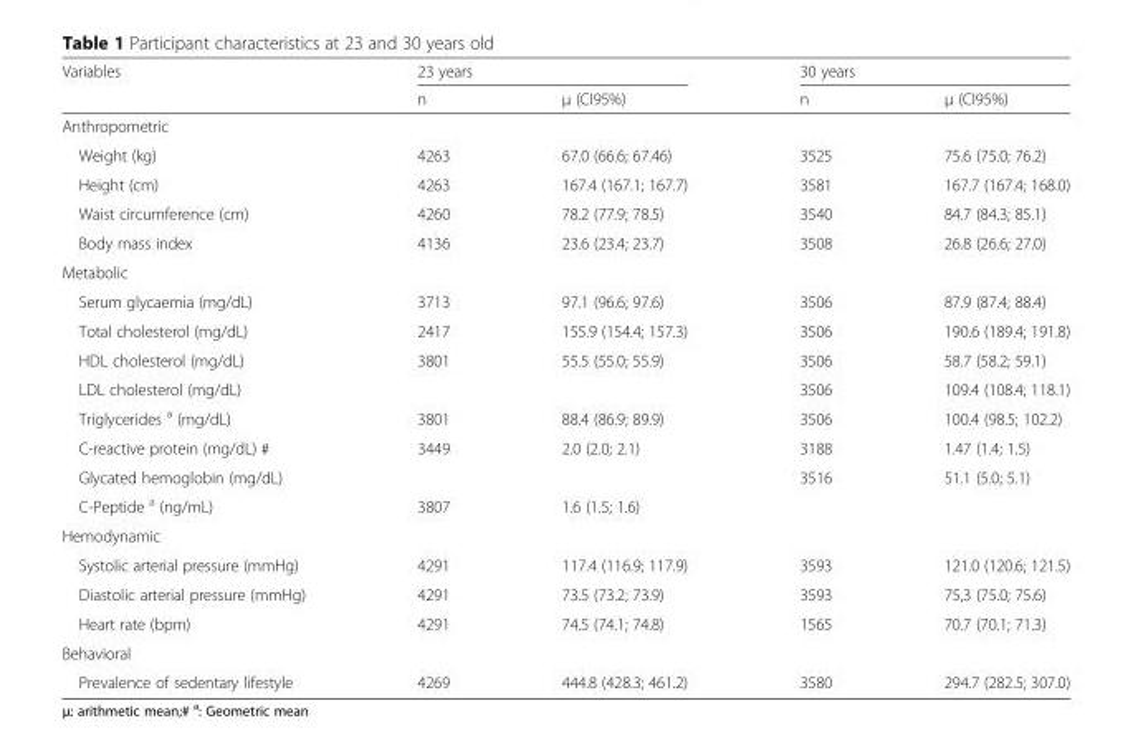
<table><thead><tr><td rowspan="2">Variables</td><td colspan="2">23 years</td><td colspan="2">30 years</td></tr><tr><td>n</td><td>μ (CI95%)</td><td>n</td><td>μ (CI95%)</td></tr></thead><tbody><tr><td colspan="5">Anthropometric</td></tr><tr><td>Weight (kg)</td><td>4263</td><td>67.0 (66.6; 67.46)</td><td>3525</td><td>75.6 (75.0; 76.2)</td></tr><tr><td>Height (cm)</td><td>4263</td><td>167.4 (167.1; 167.7)</td><td>3581</td><td>167.7 (167.4; 168.0)</td></tr><tr><td>Waist circumference (cm)</td><td>4260</td><td>78.2 (77.9; 78.5)</td><td>3540</td><td>84.7 (84.3; 85.1)</td></tr><tr><td>Body mass index</td><td>4136</td><td>23.6 (23.4; 23.7)</td><td>3508</td><td>26.8 (26.6; 27.0)</td></tr><tr><td colspan="5">Metabolic</td></tr><tr><td>Serum glycaemia (mg/dL)</td><td>3713</td><td>97.1 (96.6; 97.6)</td><td>3506</td><td>87.9 (87.4; 88.4)</td></tr><tr><td>Total cholesterol (mg/dL)</td><td>2417</td><td>155.9 (154.4; 157.3)</td><td>3506</td><td>190.6 (189.4; 191.8)</td></tr><tr><td>HDL cholesterol (mg/dL)</td><td>3801</td><td>55.5 (55.0; 55.9)</td><td>3506</td><td>58.7 (58.2; 59.1)</td></tr><tr><td>LDL cholesterol (mg/dL)</td><td></td><td></td><td>3506</td><td>109.4 (108.4; 118.1)</td></tr><tr><td>Triglycerides <sup>a</sup> (mg/dL)</td><td>3801</td><td>88.4 (86.9; 89.9)</td><td>3506</td><td>100.4 (98.5; 102.2)</td></tr><tr><td>C-reactive protein (mg/dL) #</td><td>3449</td><td>2.0 (2.0; 2.1)</td><td>3188</td><td>1.47 (1.4; 1.5)</td></tr><tr><td>Glycated hemoglobin (mg/dL)</td><td></td><td></td><td>3516</td><td>51.1 (5.0; 5.1)</td></tr><tr><td>C-Peptide <sup>a</sup> (ng/mL)</td><td>3807</td><td>1.6 (1.5; 1.6)</td><td></td><td></td></tr><tr><td colspan="5">Hemodynamic</td></tr><tr><td>Systolic arterial pressure (mmHg)</td><td>4291</td><td>117.4 (116.9; 117.9)</td><td>3593</td><td>121.0 (120.6; 121.5)</td></tr><tr><td>Diastolic arterial pressure (mmHg)</td><td>4291</td><td>73.5 (73.2; 73.9)</td><td>3593</td><td>75,3 (75.0; 75.6)</td></tr><tr><td>Heart rate (bpm)</td><td>4291</td><td>74.5 (74.1; 74.8)</td><td>1565</td><td>70.7 (70.1; 71.3)</td></tr><tr><td colspan="5">Behavioral</td></tr><tr><td>Prevalence of sedentary lifestyle</td><td>4269</td><td>444.8 (428.3; 461.2)</td><td>3580</td><td>294.7 (282.5; 307.0)</td></tr></tbody></table>